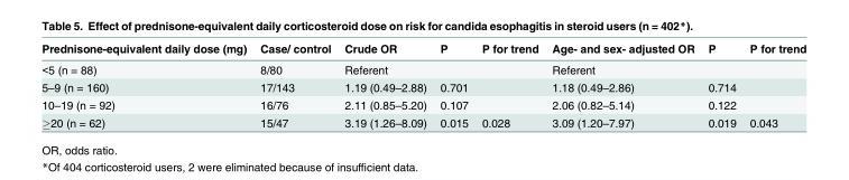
<table><thead><tr><td>Prednisone-equivalent daily dose (mg)</td><td>Case/ control</td><td>Crude OR</td><td>P</td><td>P for trend</td><td>Age- and sex- adjusted OR</td><td>P</td><td>P for trend</td></tr></thead><tbody><tr><td>&lt;5 (n = 88)</td><td>8/80</td><td>Referent</td><td></td><td></td><td>Referent</td><td></td><td></td></tr><tr><td>5–9 (n = 160)</td><td>17/143</td><td>1.19 (0.49–2.88)</td><td>0.701</td><td></td><td>1.18 (0.49–2.86)</td><td>0.714</td><td></td></tr><tr><td>10–19 (n = 92)</td><td>16/76</td><td>2.11 (0.85–5.20)</td><td>0.107</td><td></td><td>2.06 (0.82–5.14)</td><td>0.122</td><td></td></tr><tr><td>≥20 (n = 62)</td><td>15/47</td><td>3.19 (1.26–8.09)</td><td>0.015</td><td>0.028</td><td>3.09 (1.20–7.97)</td><td>0.019</td><td>0.043</td></tr></tbody></table>